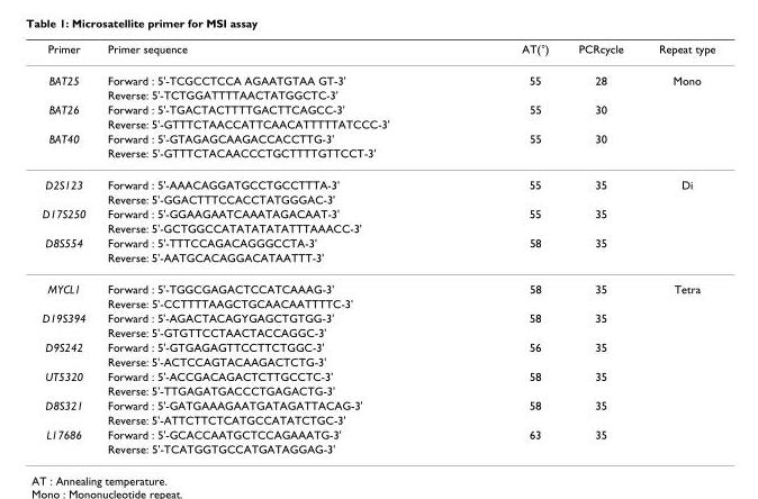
<table><thead><tr><td>Primer</td><td>Primer sequence</td><td>AT(°)</td><td>PCRcycle</td><td>Repeat type</td></tr></thead><tbody><tr><td rowspan="2">BAT25</td><td>Forward : 5&#x27;-TCGCCTCCA AGAATGTAA GT-3&#x27;</td><td>55</td><td>28</td><td>Mono</td></tr><tr><td>Reverse: 5&#x27;-TCTGGATTTTAACTATGGCTC-3&#x27;</td><td></td><td></td><td></td></tr><tr><td rowspan="2">BAT26</td><td>Forward : 5&#x27;-TGACTACTTTTGACTTCAGCC-3&#x27;</td><td>55</td><td>30</td><td></td></tr><tr><td>Reverse: 5&#x27;-GTTTCTAACCATTCAACATTTTTATCCC-3&#x27;</td><td></td><td></td><td></td></tr><tr><td rowspan="2">BAT40</td><td>Forward : 5&#x27;-GTAGAGCAAGACCACCTTG-3&#x27;</td><td>55</td><td>30</td><td></td></tr><tr><td>Reverse: 5&#x27;-GTTTCTACAACCCTGCTTTTGTTCCT-3&#x27;</td><td></td><td></td><td></td></tr><tr><td rowspan="2">D2S123</td><td>Forward : 5&#x27;-AAACAGGATGCCTGCCTTTA-3&#x27;</td><td>55</td><td>35</td><td>Di</td></tr><tr><td>Reverse: 5&#x27;-GGACTTTCCACCTATGGGAC-3&#x27;</td><td></td><td></td><td></td></tr><tr><td rowspan="2">D17S250</td><td>Forward : 5&#x27;-GGAAGAATCAAATAGACAAT-3&#x27;</td><td>55</td><td>35</td><td></td></tr><tr><td>Reverse: 5&#x27;-GCTGGCCATATATATATTTAAACC-3&#x27;</td><td></td><td></td><td></td></tr><tr><td rowspan="2">D8S554</td><td>Forward : 5&#x27;-TTTCCAGACAGGGCCTA-3&#x27;</td><td>58</td><td>35</td><td></td></tr><tr><td>Reverse: 5&#x27;-AATGCACAGGACATAATTT-3&#x27;</td><td></td><td></td><td></td></tr><tr><td rowspan="2">MYCL1</td><td>Forward : 5&#x27;-TGGCGAGACTCCATCAAAG-3&#x27;</td><td>58</td><td>35</td><td>Tetra</td></tr><tr><td>Reverse: 5&#x27;-CCTTTTAAGCTGCAACAATTTTC-3&#x27;</td><td></td><td></td><td></td></tr><tr><td rowspan="2">D19S394</td><td>Forward : 5&#x27;-AGACTACAGYGAGCTGTGG-3&#x27;</td><td>58</td><td>35</td><td></td></tr><tr><td>Reverse: 5&#x27;-GTGTTCCTAACTACCAGGC-3&#x27;</td><td></td><td></td><td></td></tr><tr><td rowspan="2">D9S242</td><td>Forward : 5&#x27;-GTGAGAGTTCCTTCTGGC-3&#x27;</td><td>56</td><td>35</td><td></td></tr><tr><td>Reverse: 5&#x27;-ACTCCAGTACAAGACTCTG-3&#x27;</td><td></td><td></td><td></td></tr><tr><td rowspan="2">UT5320</td><td>Forward : 5&#x27;-ACCGACAGACTCTTGCCTC-3&#x27;</td><td>58</td><td>35</td><td></td></tr><tr><td>Reverse: 5&#x27;-TTGAGATGACCCTGAGACTG-3&#x27;</td><td></td><td></td><td></td></tr><tr><td rowspan="2">D8S321</td><td>Forward : 5&#x27;-GATGAAAGAATGATAGATTACAG-3&#x27;</td><td>58</td><td>35</td><td></td></tr><tr><td>Reverse: 5&#x27;-ATTCTTCTCATGCCATATCTGC-3&#x27;</td><td></td><td></td><td></td></tr><tr><td rowspan="2">L17686</td><td>Forward : 5&#x27;-GCACCAATGCTCCAGAAATG-3&#x27;</td><td>63</td><td>35</td><td></td></tr><tr><td>Reverse: 5&#x27;-TCATGGTGCCATGATAGGAG-3&#x27;</td><td></td><td></td><td></td></tr></tbody></table>